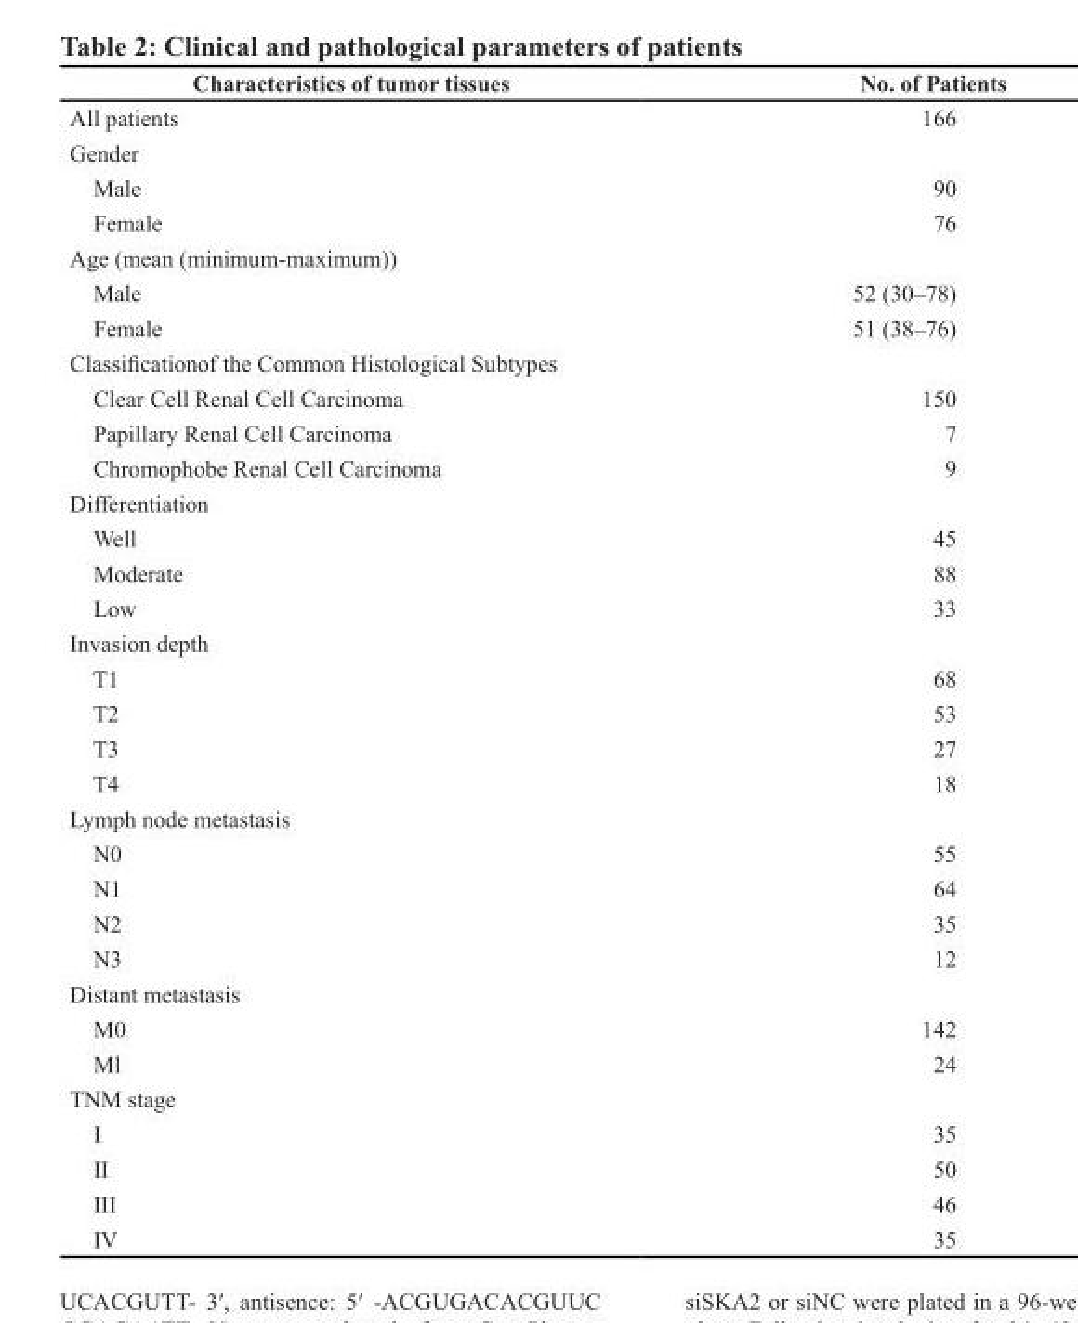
<table><thead><tr><td>Characteristics of tumor tissues</td><td>No. of Patients</td></tr></thead><tbody><tr><td>All patients</td><td>166</td></tr><tr><td colspan="2">Gender</td></tr><tr><td>Male</td><td>90</td></tr><tr><td>Female</td><td>76</td></tr><tr><td colspan="2">Age (mean (minimum-maximum))</td></tr><tr><td>Male</td><td>52 (30–78)</td></tr><tr><td>Female</td><td>51 (38–76)</td></tr><tr><td colspan="2">Classificationof the Common Histological Subtypes</td></tr><tr><td>Clear Cell Renal Cell Carcinoma</td><td>150</td></tr><tr><td>Papillary Renal Cell Carcinoma</td><td>7</td></tr><tr><td>Chromophobe Renal Cell Carcinoma</td><td>9</td></tr><tr><td colspan="2">Differentiation</td></tr><tr><td>Well</td><td>45</td></tr><tr><td>Moderate</td><td>88</td></tr><tr><td>Low</td><td>33</td></tr><tr><td colspan="2">Invasion depth</td></tr><tr><td>T1</td><td>68</td></tr><tr><td>T2</td><td>53</td></tr><tr><td>T3</td><td>27</td></tr><tr><td>T4</td><td>18</td></tr><tr><td colspan="2">Lymph node metastasis</td></tr><tr><td>N0</td><td>55</td></tr><tr><td>N1</td><td>64</td></tr><tr><td>N2</td><td>35</td></tr><tr><td>N3</td><td>12</td></tr><tr><td colspan="2">Distant metastasis</td></tr><tr><td>M0</td><td>142</td></tr><tr><td>Ml</td><td>24</td></tr><tr><td colspan="2">TNM stage</td></tr><tr><td>I</td><td>35</td></tr><tr><td>II</td><td>50</td></tr><tr><td>III</td><td>46</td></tr><tr><td>IV</td><td>35</td></tr></tbody></table>